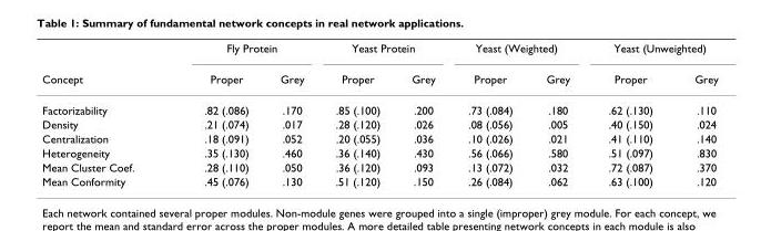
<table><thead><tr><td rowspan="2">Concept</td><td colspan="2">Fly Protein</td><td colspan="2">Yeast Protein</td><td colspan="2">Yeast (Weighted)</td><td colspan="2">Yeast (Unweighted)</td></tr><tr><td>Proper</td><td>Grey</td><td>Proper</td><td>Grey</td><td>Proper</td><td>Grey</td><td>Proper</td><td>Grey</td></tr></thead><tbody><tr><td>Factorizability</td><td>.82 (.086)</td><td>.170</td><td>.85 (.100)</td><td>.200</td><td>.73 (.084)</td><td>.180</td><td>.62 (.130)</td><td>.110</td></tr><tr><td>Density</td><td>.21 (.074)</td><td>.017</td><td>.28 (.120)</td><td>.026</td><td>.08 (.056)</td><td>.005</td><td>.40 (.150)</td><td>.024</td></tr><tr><td>Centralization</td><td>.18 (.091)</td><td>.052</td><td>.20 (.055)</td><td>.036</td><td>.10 (.026)</td><td>.021</td><td>.41 (.110)</td><td>.140</td></tr><tr><td>Heterogeneity</td><td>.35 (.130)</td><td>.460</td><td>.36 (.140)</td><td>.430</td><td>.56 (.066)</td><td>.580</td><td>.51 (.097)</td><td>.830</td></tr><tr><td>Mean Cluster Coef.</td><td>.28 (.110)</td><td>.050</td><td>.36 (.120)</td><td>.093</td><td>.13 (.072)</td><td>.032</td><td>.72 (.087)</td><td>.370</td></tr><tr><td>Mean Conformity</td><td>.45 (.076)</td><td>.130</td><td>.51 (.120)</td><td>.150</td><td>.26 (.084)</td><td>.062</td><td>.63 (.100)</td><td>.120</td></tr></tbody></table>